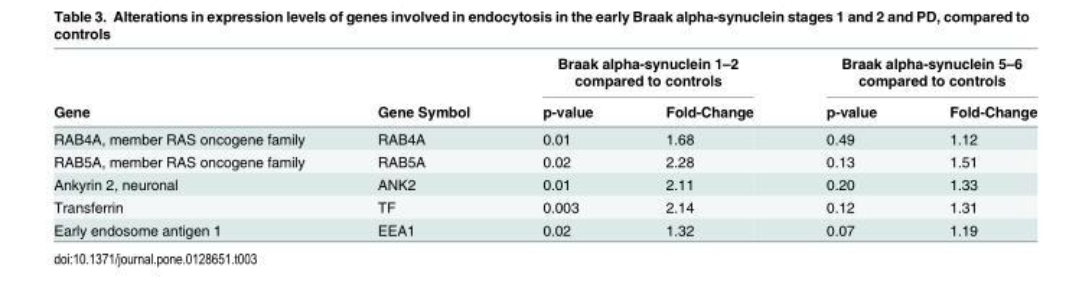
<table><thead><tr><td rowspan="2">Gene</td><td rowspan="2">Gene Symbol</td><td colspan="2">Braak alpha-synuclein 1–2 compared to controls</td><td colspan="2">Braak alpha-synuclein 5–6 compared to controls</td></tr><tr><td>p-value</td><td>Fold-Change</td><td>p-value</td><td>Fold-Change</td></tr></thead><tbody><tr><td>RAB4A, member RAS oncogene family</td><td>RAB4A</td><td>0.01</td><td>1.68</td><td>0.49</td><td>1.12</td></tr><tr><td>RAB5A, member RAS oncogene family</td><td>RAB5A</td><td>0.02</td><td>2.28</td><td>0.13</td><td>1.51</td></tr><tr><td>Ankyrin 2, neuronal</td><td>ANK2</td><td>0.01</td><td>2.11</td><td>0.20</td><td>1.33</td></tr><tr><td>Transferrin</td><td>TF</td><td>0.003</td><td>2.14</td><td>0.12</td><td>1.31</td></tr><tr><td>Early endosome antigen 1</td><td>EEA1</td><td>0.02</td><td>1.32</td><td>0.07</td><td>1.19</td></tr></tbody></table>